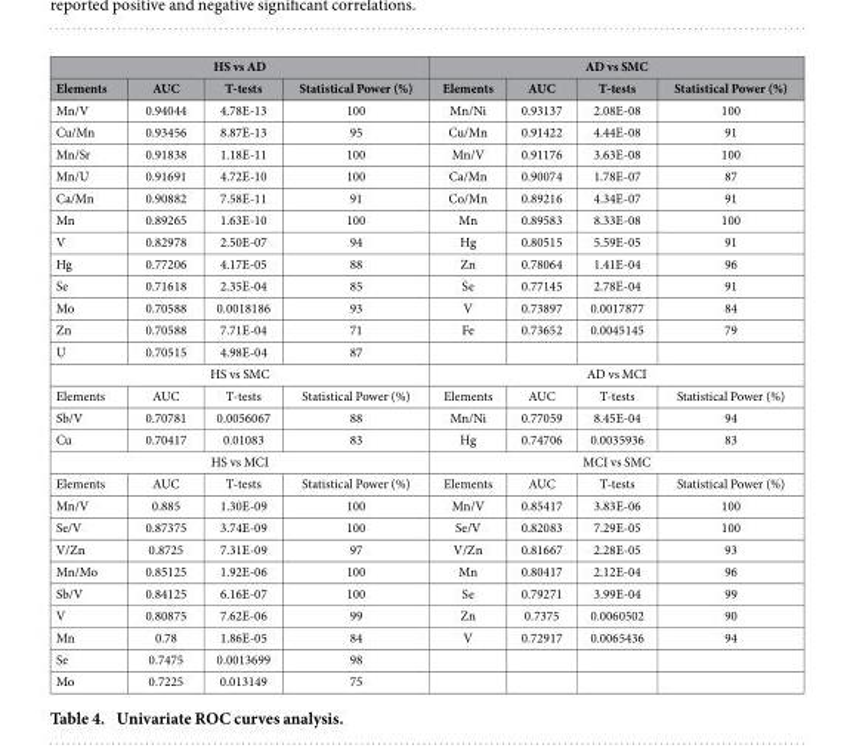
<table><thead><tr><td colspan="4">HS vs AD</td><td colspan="4">AD vs SMC</td></tr><tr><td>Elements</td><td>AUC</td><td>T-tests</td><td>Statistical Power (%)</td><td>Elements</td><td>AUC</td><td>T-tests</td><td>Statistical Power (%)</td></tr></thead><tbody><tr><td>Mn/V</td><td>0.94044</td><td>4.78E-13</td><td>100</td><td>Mn/Ni</td><td>0.93137</td><td>2.08E-08</td><td>100</td></tr><tr><td>Cu/Mn</td><td>0.93456</td><td>8.87E-13</td><td>95</td><td>Cu/Mn</td><td>0.91422</td><td>4.44E-08</td><td>91</td></tr><tr><td>Mn/Sr</td><td>0.91838</td><td>1.18E-11</td><td>100</td><td>Mn/V</td><td>0.91176</td><td>3.63E-08</td><td>100</td></tr><tr><td>Mn/U</td><td>0.91691</td><td>4.72E-10</td><td>100</td><td>Ca/Mn</td><td>0.90074</td><td>1.78E-07</td><td>87</td></tr><tr><td>Ca/Mn</td><td>0.90882</td><td>7.58E-11</td><td>91</td><td>Co/Mn</td><td>0.89216</td><td>4.34E-07</td><td>91</td></tr><tr><td>Mn</td><td>0.89265</td><td>1.63E-10</td><td>100</td><td>Mn</td><td>0.89583</td><td>8.33E-08</td><td>100</td></tr><tr><td>V</td><td>0.82978</td><td>2.50E-07</td><td>94</td><td>Hg</td><td>0.80515</td><td>5.59E-05</td><td>91</td></tr><tr><td>Hg</td><td>0.77206</td><td>4.17E-05</td><td>88</td><td>Zn</td><td>0.78064</td><td>1.41E-04</td><td>96</td></tr><tr><td>Se</td><td>0.71618</td><td>2.35E-04</td><td>85</td><td>Se</td><td>0.77145</td><td>2.78E-04</td><td>91</td></tr><tr><td>Mo</td><td>0.70588</td><td>0.0018186</td><td>93</td><td>V</td><td>0.73897</td><td>0.0017877</td><td>84</td></tr><tr><td>Zn</td><td>0.70588</td><td>7.71E-04</td><td>71</td><td>Fe</td><td>0.73652</td><td>0.0045145</td><td>79</td></tr><tr><td>U</td><td>0.70515</td><td>4.98E-04</td><td>87</td><td></td><td></td><td></td><td></td></tr><tr><td colspan="4">HS vs SMC</td><td colspan="4">AD vs MCI</td></tr><tr><td>Elements</td><td>AUC</td><td>T-tests</td><td>Statistical Power (%)</td><td>Elements</td><td>AUC</td><td>T-tests</td><td>Statistical Power (%)</td></tr><tr><td>Sb/V</td><td>0.70781</td><td>0.0056067</td><td>88</td><td>Mn/Ni</td><td>0.77059</td><td>8.45E-04</td><td>94</td></tr><tr><td>Cu</td><td>0.70417</td><td>0.01083</td><td>83</td><td>Hg</td><td>0.74706</td><td>0.0035936</td><td>83</td></tr><tr><td colspan="4">HS vs MCI</td><td colspan="4">MCI vs SMC</td></tr><tr><td>Elements</td><td>AUC</td><td>T-tests</td><td>Statistical Power (%)</td><td>Elements</td><td>AUC</td><td>T-tests</td><td>Statistical Power (%)</td></tr><tr><td>Mn/V</td><td>0.885</td><td>1.30E-09</td><td>100</td><td>Mn/V</td><td>0.85417</td><td>3.83E-06</td><td>100</td></tr><tr><td>Se/V</td><td>0.87375</td><td>3.74E-09</td><td>100</td><td>Se/V</td><td>0.82083</td><td>7.29E-05</td><td>100</td></tr><tr><td>V/Zn</td><td>0.8725</td><td>7.31E-09</td><td>97</td><td>V/Zn</td><td>0.81667</td><td>2.28E-05</td><td>93</td></tr><tr><td>Mn/Mo</td><td>0.85125</td><td>1.92E-06</td><td>100</td><td>Mn</td><td>0.80417</td><td>2.12E-04</td><td>96</td></tr><tr><td>Sb/V</td><td>0.84125</td><td>6.16E-07</td><td>100</td><td>Se</td><td>0.79271</td><td>3.99E-04</td><td>99</td></tr><tr><td>V</td><td>0.80875</td><td>7.62E-06</td><td>99</td><td>Zn</td><td>0.7375</td><td>0.0060502</td><td>90</td></tr><tr><td>Mn</td><td>0.78</td><td>1.86E-05</td><td>84</td><td>V</td><td>0.72917</td><td>0.0065436</td><td>94</td></tr><tr><td>Se</td><td>0.7475</td><td>0.0013699</td><td>98</td><td></td><td></td><td></td><td></td></tr><tr><td>Mo</td><td>0.7225</td><td>0.013149</td><td>75</td><td></td><td></td><td></td><td></td></tr></tbody></table>